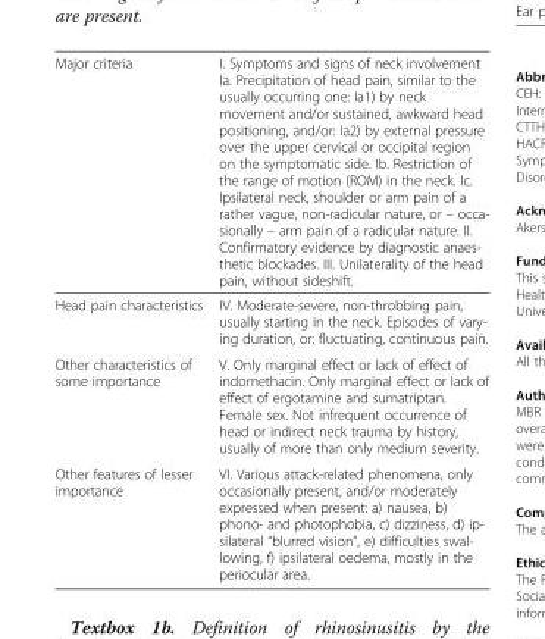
<table><thead><tr><td>Major criteria</td><td>I. Symptoms and signs of neck involvement Ia. Precipitation of head pain, similar to the usually occurring one: Ia1) by neck movement and/or sustained, awkward head positioning, and/or: Ia2) by external pressure over the upper cervical or occipital region on the symptomatic side. Ib. Restriction of the range of motion (ROM) in the neck. Ic. Ipsilateral neck, shoulder or arm pain of a rather vague, non-radicular nature, or – occa- sionally – arm pain of a radicular nature. II. Confirmatory evidence by diagnostic anaes- thetic blockades. III. Unilaterality of the head pain, without sideshift.</td></tr></thead><tbody><tr><td>Head pain characteristics</td><td>IV. Moderate-severe, non-throbbing pain, usually starting in the neck. Episodes of vary- ing duration, or: fluctuating, continuous pain.</td></tr><tr><td>Other characteristics of some importance</td><td>V. Only marginal effect or lack of effect of indomethacin. Only marginal effect or lack of effect of ergotamine and sumatriptan. Female sex. Not infrequent occurrence of head or indirect neck trauma by history, usually of more than only medium severity.</td></tr><tr><td>Other features of lesser importance</td><td>VI. Various attack-related phenomena, only occasionally present, and/or moderately expressed when present: a) nausea, b) phono- and photophobia, c) dizziness, d) ip- silateral “blurred vision”, e) difficulties swal- lowing, f) ipsilateral oedema, mostly in the periocular area.</td></tr></tbody></table>